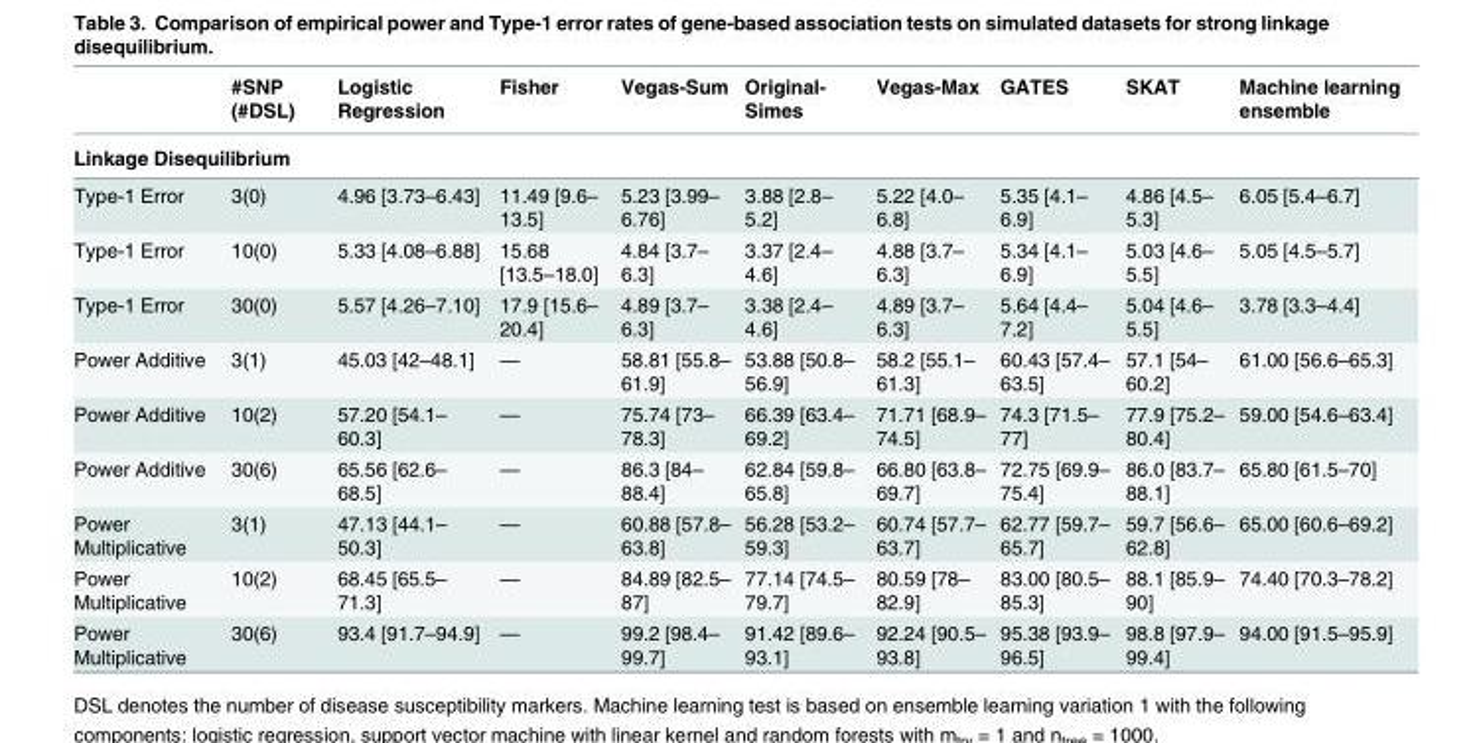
<table><thead><tr><td></td><td>#SNP (#DSL)</td><td>Logistic Regression</td><td>Fisher</td><td>Vegas-Sum</td><td>Original- Simes</td><td>Vegas-Max</td><td>GATES</td><td>SKAT</td><td>Machine learning ensemble</td></tr><tr><td colspan="10">Linkage Disequilibrium</td></tr></thead><tbody><tr><td>Type-1 Error</td><td>3(0)</td><td>4.96 [3.73–6.43]</td><td>11.49 [9.6– 13.5]</td><td>5.23 [3.99– 6.76]</td><td>3.88 [2.8– 5.2]</td><td>5.22 [4.0– 6.8]</td><td>5.35 [4.1– 6.9]</td><td>4.86 [4.5– 5.3]</td><td>6.05 [5.4–6.7]</td></tr><tr><td>Type-1 Error</td><td>10(0)</td><td>5.33 [4.08–6.88]</td><td>15.68 [13.5–18.0]</td><td>4.84 [3.7– 6.3]</td><td>3.37 [2.4– 4.6]</td><td>4.88 [3.7– 6.3]</td><td>5.34 [4.1– 6.9]</td><td>5.03 [4.6– 5.5]</td><td>5.05 [4.5–5.7]</td></tr><tr><td>Type-1 Error</td><td>30(0)</td><td>5.57 [4.26–7.10]</td><td>17.9 [15.6– 20.4]</td><td>4.89 [3.7– 6.3]</td><td>3.38 [2.4– 4.6]</td><td>4.89 [3.7– 6.3]</td><td>5.64 [4.4– 7.2]</td><td>5.04 [4.6– 5.5]</td><td>3.78 [3.3–4.4]</td></tr><tr><td>Power Additive</td><td>3(1)</td><td>45.03 [42–48.1]</td><td>—</td><td>58.81 [55.8– 61.9]</td><td>53.88 [50.8– 56.9]</td><td>58.2 [55.1– 61.3]</td><td>60.43 [57.4– 63.5]</td><td>57.1 [54– 60.2]</td><td>61.00 [56.6–65.3]</td></tr><tr><td>Power Additive</td><td>10(2)</td><td>57.20 [54.1– 60.3]</td><td>—</td><td>75.74 [73– 78.3]</td><td>66.39 [63.4– 69.2]</td><td>71.71 [68.9– 74.5]</td><td>74.3 [71.5– 77]</td><td>77.9 [75.2– 80.4]</td><td>59.00 [54.6–63.4]</td></tr><tr><td>Power Additive</td><td>30(6)</td><td>65.56 [62.6– 68.5]</td><td>—</td><td>86.3 [84– 88.4]</td><td>62.84 [59.8– 65.8]</td><td>66.80 [63.8– 69.7]</td><td>72.75 [69.9– 75.4]</td><td>86.0 [83.7– 88.1]</td><td>65.80 [61.5–70]</td></tr><tr><td>Power Multiplicative</td><td>3(1)</td><td>47.13 [44.1– 50.3]</td><td>—</td><td>60.88 [57.8– 63.8]</td><td>56.28 [53.2– 59.3]</td><td>60.74 [57.7– 63.7]</td><td>62.77 [59.7– 65.7]</td><td>59.7 [56.6– 62.8]</td><td>65.00 [60.6–69.2]</td></tr><tr><td>Power Multiplicative</td><td>10(2)</td><td>68.45 [65.5– 71.3]</td><td>—</td><td>84.89 [82.5– 87]</td><td>77.14 [74.5– 79.7]</td><td>80.59 [78– 82.9]</td><td>83.00 [80.5– 85.3]</td><td>88.1 [85.9– 90]</td><td>74.40 [70.3–78.2]</td></tr><tr><td>Power Multiplicative</td><td>30(6)</td><td>93.4 [91.7–94.9]</td><td>—</td><td>99.2 [98.4– 99.7]</td><td>91.42 [89.6– 93.1]</td><td>92.24 [90.5– 93.8]</td><td>95.38 [93.9– 96.5]</td><td>98.8 [97.9– 99.4]</td><td>94.00 [91.5–95.9]</td></tr></tbody></table>